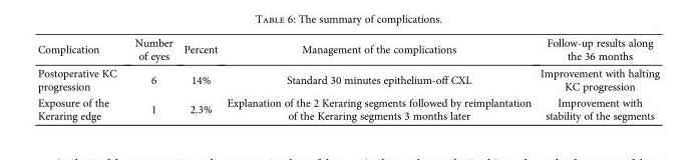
<table><thead><tr><td>Complication</td><td>Number of eyes</td><td>Percent</td><td>Management of the complications</td><td>Follow-up results along the 36 months</td></tr></thead><tbody><tr><td>Postoperative KC progression</td><td>6</td><td>14%</td><td>Standard 30 minutes epithelium-off CXL</td><td>Improvement with halting KC progression</td></tr><tr><td>Exposure of the Keraring edge</td><td>1</td><td>2.3%</td><td>Explanation of the 2 Keraring segments followed by reimplantation of the Keraring segments 3 months later</td><td>Improvement with stability of the segments</td></tr></tbody></table>